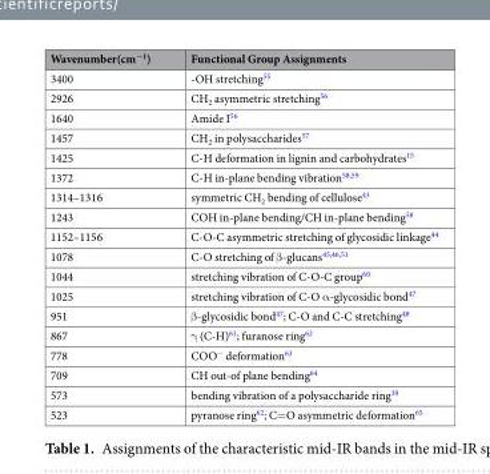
<table><thead><tr><td>Wavenumber(cm<sup>−1</sup>)</td><td>Functional Group Assignments</td></tr></thead><tbody><tr><td>3400</td><td>-OH stretching<sup>55</sup></td></tr><tr><td>2926</td><td>CH<sub>2</sub> asymmetric stretching<sup>56</sup></td></tr><tr><td>1640</td><td>Amide I<sup>56</sup></td></tr><tr><td>1457</td><td>CH<sub>2</sub> in polysaccharides<sup>57</sup></td></tr><tr><td>1425</td><td>C-H deformation in lignin and carbohydrates<sup>15</sup></td></tr><tr><td>1372</td><td>C-H in-plane bending vibration<sup>58,59</sup></td></tr><tr><td>1314–1316</td><td>symmetric CH<sub>2</sub> bending of cellulose<sup>43</sup></td></tr><tr><td>1243</td><td>COH in-plane bending/CH in-plane bending<sup>58</sup></td></tr><tr><td>1152–1156</td><td>C-O-C asymmetric stretching of glycosidic linkage<sup>44</sup></td></tr><tr><td>1078</td><td>C-O stretching of β-glucans<sup>45,46,51</sup></td></tr><tr><td>1044</td><td>stretching vibration of C-O-C group<sup>60</sup></td></tr><tr><td>1025</td><td>stretching vibration of C-O α-glycosidic bond<sup>47</sup></td></tr><tr><td>951</td><td>β-glycosidic bond<sup>47</sup>; C-O and C-C stretching<sup>48</sup></td></tr><tr><td>867</td><td>γ (C-H)<sup>61</sup>; furanose ring<sup>62</sup></td></tr><tr><td>778</td><td>COO<sup>−</sup> deformation<sup>63</sup></td></tr><tr><td>709</td><td>CH out-of plane bending<sup>64</sup></td></tr><tr><td>573</td><td>bending vibration of a polysaccharide ring<sup>39</sup></td></tr><tr><td>523</td><td>pyranose ring<sup>62</sup>; C=O asymmetric deformation<sup>65</sup></td></tr></tbody></table>